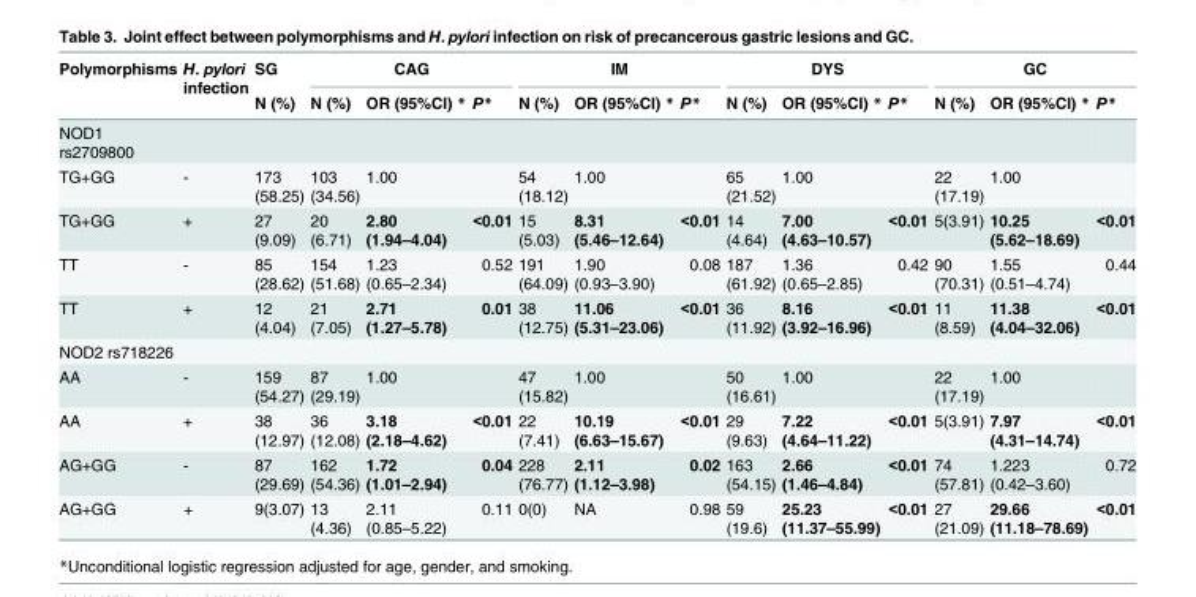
<table><thead><tr><td rowspan="2">Polymorphisms</td><td rowspan="2">H. pylori infection</td><td rowspan="2">SG N (%)</td><td colspan="3">CAG</td><td colspan="3">IM</td><td colspan="3">DYS</td><td colspan="3">GC</td></tr><tr><td>N (%)</td><td>OR (95%CI) *</td><td>P*</td><td>N (%)</td><td>OR (95%CI) *</td><td>P*</td><td>N (%)</td><td>OR (95%CI) *</td><td>P*</td><td>N (%)</td><td>OR (95%CI) *</td><td>P*</td></tr></thead><tbody><tr><td colspan="15">NOD1 rs2709800</td></tr><tr><td>TG+GG</td><td>-</td><td>173 (58.25)</td><td>103 (34.56)</td><td>1.00</td><td></td><td>54 (18.12)</td><td>1.00</td><td></td><td>65 (21.52)</td><td>1.00</td><td></td><td>22 (17.19)</td><td>1.00</td><td></td></tr><tr><td>TG+GG</td><td>+</td><td>27 (9.09)</td><td>20 (6.71)</td><td>2.80 (1.94–4.04)</td><td>&lt;0.01</td><td>15 (5.03)</td><td>8.31 (5.46–12.64)</td><td>&lt;0.01</td><td>14 (4.64)</td><td>7.00 (4.63–10.57)</td><td>&lt;0.01</td><td>5(3.91)</td><td>10.25 (5.62–18.69)</td><td>&lt;0.01</td></tr><tr><td>TT</td><td>-</td><td>85 (28.62)</td><td>154 (51.68)</td><td>1.23 (0.65–2.34)</td><td>0.52</td><td>191 (64.09)</td><td>1.90 (0.93–3.90)</td><td>0.08</td><td>187 (61.92)</td><td>1.36 (0.65–2.85)</td><td>0.42</td><td>90 (70.31)</td><td>1.55 (0.51–4.74)</td><td>0.44</td></tr><tr><td>TT</td><td>+</td><td>12 (4.04)</td><td>21 (7.05)</td><td>2.71 (1.27–5.78)</td><td>0.01</td><td>38 (12.75)</td><td>11.06 (5.31–23.06)</td><td>&lt;0.01</td><td>36 (11.92)</td><td>8.16 (3.92–16.96)</td><td>&lt;0.01</td><td>11 (8.59)</td><td>11.38 (4.04–32.06)</td><td>&lt;0.01</td></tr><tr><td colspan="15">NOD2 rs718226</td></tr><tr><td>AA</td><td>-</td><td>159 (54.27)</td><td>87 (29.19)</td><td>1.00</td><td></td><td>47 (15.82)</td><td>1.00</td><td></td><td>50 (16.61)</td><td>1.00</td><td></td><td>22 (17.19)</td><td>1.00</td><td></td></tr><tr><td>AA</td><td>+</td><td>38 (12.97)</td><td>36 (12.08)</td><td>3.18 (2.18–4.62)</td><td>&lt;0.01</td><td>22 (7.41)</td><td>10.19 (6.63–15.67)</td><td>&lt;0.01</td><td>29 (9.63)</td><td>7.22 (4.64–11.22)</td><td>&lt;0.01</td><td>5(3.91)</td><td>7.97 (4.31–14.74)</td><td>&lt;0.01</td></tr><tr><td>AG+GG</td><td>-</td><td>87 (29.69)</td><td>162 (54.36)</td><td>1.72 (1.01–2.94)</td><td>0.04</td><td>228 (76.77)</td><td>2.11 (1.12–3.98)</td><td>0.02</td><td>163 (54.15)</td><td>2.66 (1.46–4.84)</td><td>&lt;0.01</td><td>74 (57.81)</td><td>1.223 (0.42–3.60)</td><td>0.72</td></tr><tr><td>AG+GG</td><td>+</td><td>9(3.07)</td><td>13 (4.36)</td><td>2.11 (0.85–5.22)</td><td>0.11</td><td>0(0)</td><td>NA</td><td>0.98</td><td>59 (19.6)</td><td>25.23 (11.37–55.99)</td><td>&lt;0.01</td><td>27 (21.09)</td><td>29.66 (11.18–78.69)</td><td>&lt;0.01</td></tr></tbody></table>